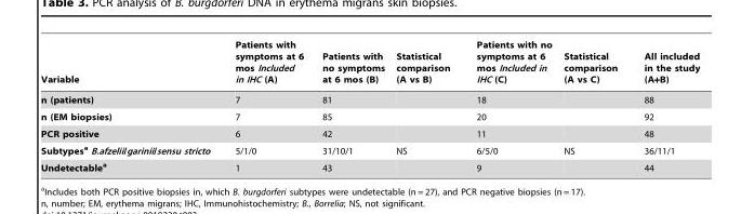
<table><thead><tr><td>Variable</td><td>Patients with symptoms at 6 mos Included in IHC (A)</td><td>Patients with no symptoms at 6 mos (B)</td><td>Statistical comparison (A vs B)</td><td>Patients with no symptoms at 6 mos Included in IHC (C)</td><td>Statistical comparison (A vs C)</td><td>All included in the study (A+B)</td></tr></thead><tbody><tr><td>n (patients)</td><td>7</td><td>81</td><td></td><td>18</td><td></td><td>88</td></tr><tr><td>n (EM biopsies)</td><td>7</td><td>85</td><td></td><td>20</td><td></td><td>92</td></tr><tr><td>PCR positive</td><td>6</td><td>42</td><td></td><td>11</td><td></td><td>48</td></tr><tr><td>Subtypesa B.afzelii/garinii/sensu stricto</td><td>5/1/0</td><td>31/10/1</td><td>NS</td><td>6/5/0</td><td>NS</td><td>36/11/1</td></tr><tr><td>Undetectablea</td><td>1</td><td>43</td><td></td><td>9</td><td></td><td>44</td></tr></tbody></table>